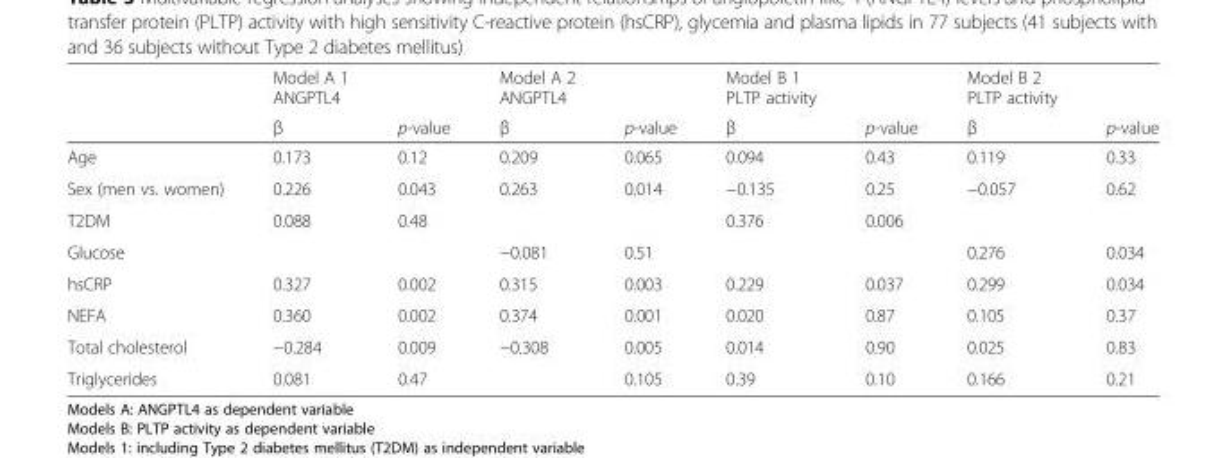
<table><thead><tr><td rowspan="2"></td><td rowspan="2">Model A 1 ANGPTL4 β</td><td rowspan="2">p-value</td><td rowspan="2">Model A 2 ANGPTL4 β</td><td rowspan="2">p-value</td><td rowspan="2">Model B 1 PLTP activity β</td><td rowspan="2">p-value</td><td rowspan="2">Model B 2 PLTP activity β</td><td rowspan="2">p-value</td></tr><tr></tr></thead><tbody><tr><td>Age</td><td>0.173</td><td>0.12</td><td>0.209</td><td>0.065</td><td>0.094</td><td>0.43</td><td>0.119</td><td>0.33</td></tr><tr><td>Sex (men vs. women)</td><td>0.226</td><td>0.043</td><td>0.263</td><td>0.014</td><td>−0.135</td><td>0.25</td><td>−0.057</td><td>0.62</td></tr><tr><td>T2DM</td><td>0.088</td><td>0.48</td><td colspan="2"></td><td>0.376</td><td>0.006</td><td colspan="2"></td></tr><tr><td>Glucose</td><td colspan="2"></td><td>−0.081</td><td>0.51</td><td></td><td></td><td>0.276</td><td>0.034</td></tr><tr><td>hsCRP</td><td>0.327</td><td>0.002</td><td>0.315</td><td>0.003</td><td>0.229</td><td>0.037</td><td>0.299</td><td>0.034</td></tr><tr><td>NEFA</td><td>0.360</td><td>0.002</td><td>0.374</td><td>0.001</td><td>0.020</td><td>0.87</td><td>0.105</td><td>0.37</td></tr><tr><td>Total cholesterol</td><td>−0.284</td><td>0.009</td><td>−0.308</td><td>0.005</td><td>0.014</td><td>0.90</td><td>0.025</td><td>0.83</td></tr><tr><td>Triglycerides</td><td>0.081</td><td>0.47</td><td></td><td>0.105</td><td>0.39</td><td>0.10</td><td>0.166</td><td>0.21</td></tr></tbody></table>